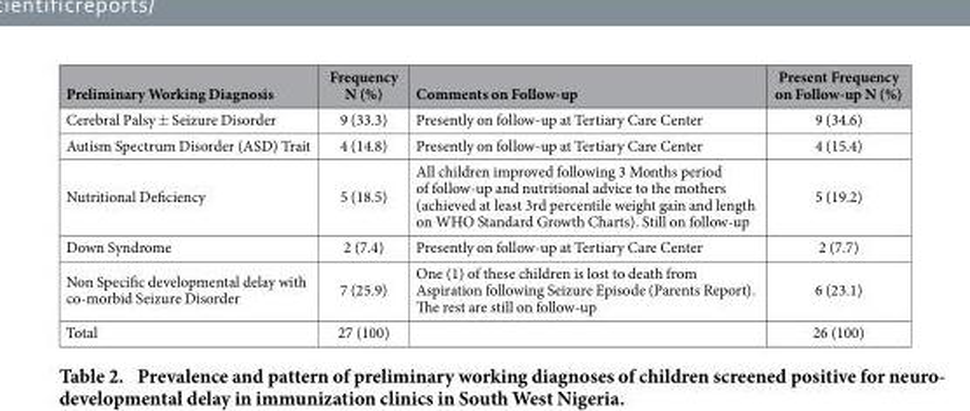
<table><thead><tr><td>Preliminary Working Diagnosis</td><td>Frequency N (%)</td><td>Comments on Follow-up</td><td>Present Frequency on Follow-up N (%)</td></tr></thead><tbody><tr><td>Cerebral Palsy ± Seizure Disorder</td><td>9 (33.3)</td><td>Presently on follow-up at Tertiary Care Center</td><td>9 (34.6)</td></tr><tr><td>Autism Spectrum Disorder (ASD) Trait</td><td>4 (14.8)</td><td>Presently on follow-up at Tertiary Care Center</td><td>4 (15.4)</td></tr><tr><td>Nutritional Deficiency</td><td>5 (18.5)</td><td>All children improved following 3 Months period of follow-up and nutritional advice to the mothers (achieved at least 3rd percentile weight gain and length on WHO Standard Growth Charts). Still on follow-up</td><td>5 (19.2)</td></tr><tr><td>Down Syndrome</td><td>2 (7.4)</td><td>Presently on follow-up at Tertiary Care Center</td><td>2 (7.7)</td></tr><tr><td>Non Specific developmental delay with co-morbid Seizure Disorder</td><td>7 (25.9)</td><td>One (1) of these children is lost to death from Aspiration following Seizure Episode (Parents Report). The rest are still on follow-up</td><td>6 (23.1)</td></tr><tr><td>Total</td><td>27 (100)</td><td></td><td>26 (100)</td></tr></tbody></table>